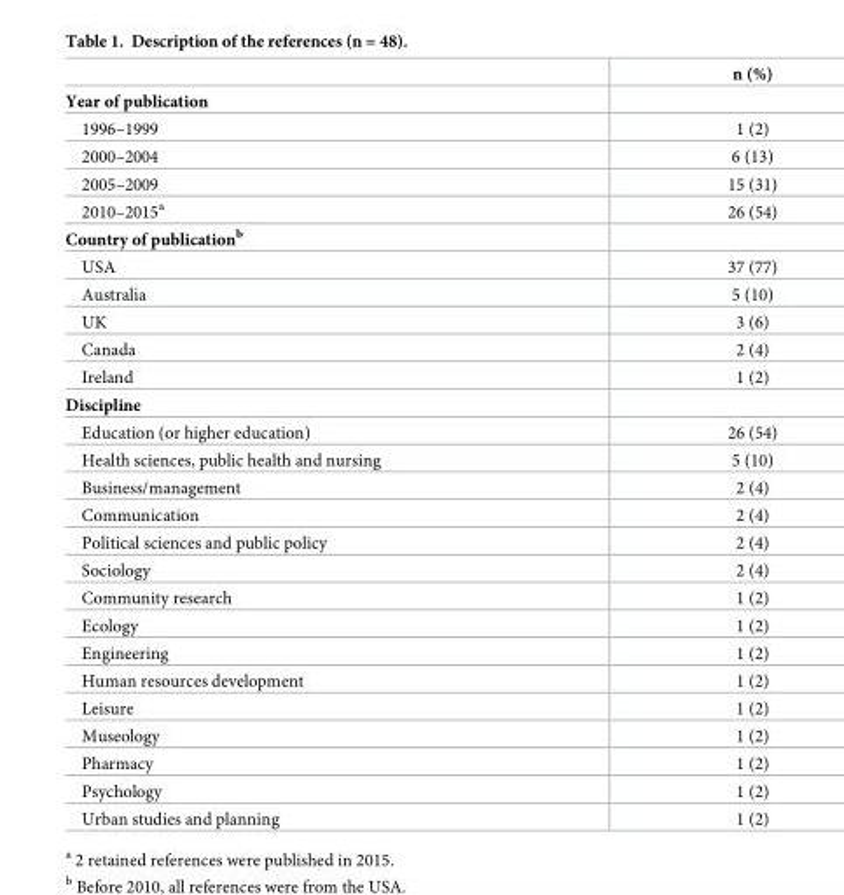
<table><thead><tr><td></td><td>n (%)</td></tr></thead><tbody><tr><td colspan="2">Year of publication</td></tr><tr><td>1996–1999</td><td>1 (2)</td></tr><tr><td>2000–2004</td><td>6 (13)</td></tr><tr><td>2005–2009</td><td>15 (31)</td></tr><tr><td>2010–2015<sup>a</sup></td><td>26 (54)</td></tr><tr><td colspan="2">Country of publication<sup>b</sup></td></tr><tr><td>USA</td><td>37 (77)</td></tr><tr><td>Australia</td><td>5 (10)</td></tr><tr><td>UK</td><td>3 (6)</td></tr><tr><td>Canada</td><td>2 (4)</td></tr><tr><td>Ireland</td><td>1 (2)</td></tr><tr><td colspan="2">Discipline</td></tr><tr><td>Education (or higher education)</td><td>26 (54)</td></tr><tr><td>Health sciences, public health and nursing</td><td>5 (10)</td></tr><tr><td>Business/management</td><td>2 (4)</td></tr><tr><td>Communication</td><td>2 (4)</td></tr><tr><td>Political sciences and public policy</td><td>2 (4)</td></tr><tr><td>Sociology</td><td>2 (4)</td></tr><tr><td>Community research</td><td>1 (2)</td></tr><tr><td>Ecology</td><td>1 (2)</td></tr><tr><td>Engineering</td><td>1 (2)</td></tr><tr><td>Human resources development</td><td>1 (2)</td></tr><tr><td>Leisure</td><td>1 (2)</td></tr><tr><td>Museology</td><td>1 (2)</td></tr><tr><td>Pharmacy</td><td>1 (2)</td></tr><tr><td>Psychology</td><td>1 (2)</td></tr><tr><td>Urban studies and planning</td><td>1 (2)</td></tr></tbody></table>